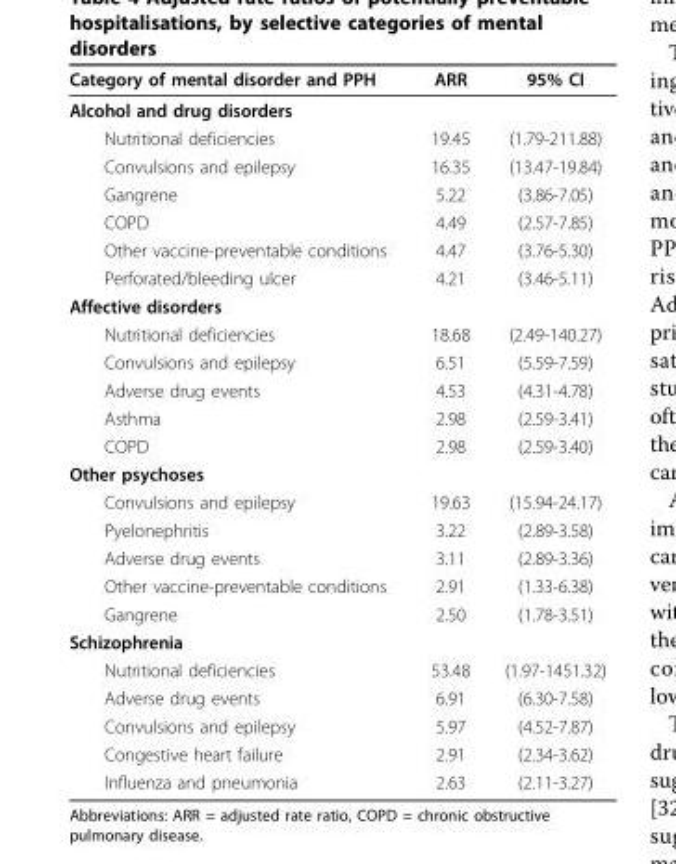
<table><thead><tr><td>Category of mental disorder and PPH</td><td>ARR</td><td>95% CI</td></tr></thead><tbody><tr><td colspan="3">Alcohol and drug disorders</td></tr><tr><td>Nutritional deficiencies</td><td>19.45</td><td>(1.79-211.88)</td></tr><tr><td>Convulsions and epilepsy</td><td>16.35</td><td>(13.47-19.84)</td></tr><tr><td>Gangrene</td><td>5.22</td><td>(3.86-7.05)</td></tr><tr><td>COPD</td><td>4.49</td><td>(2.57-7.85)</td></tr><tr><td>Other vaccine-preventable conditions</td><td>4.47</td><td>(3.76-5.30)</td></tr><tr><td>Perforated/bleeding ulcer</td><td>4.21</td><td>(3.46-5.11)</td></tr><tr><td colspan="3">Affective disorders</td></tr><tr><td>Nutritional deficiencies</td><td>18.68</td><td>(2.49-140.27)</td></tr><tr><td>Convulsions and epilepsy</td><td>6.51</td><td>(5.59-7.59)</td></tr><tr><td>Adverse drug events</td><td>4.53</td><td>(4.31-4.78)</td></tr><tr><td>Asthma</td><td>2.98</td><td>(2.59-3.41)</td></tr><tr><td>COPD</td><td>2.98</td><td>(2.59-3.40)</td></tr><tr><td colspan="3">Other psychoses</td></tr><tr><td>Convulsions and epilepsy</td><td>19.63</td><td>(15.94-24.17)</td></tr><tr><td>Pyelonephritis</td><td>3.22</td><td>(2.89-3.58)</td></tr><tr><td>Adverse drug events</td><td>3.11</td><td>(2.89-3.36)</td></tr><tr><td>Other vaccine-preventable conditions</td><td>2.91</td><td>(1.33-6.38)</td></tr><tr><td>Gangrene</td><td>2.50</td><td>(1.78-3.51)</td></tr><tr><td colspan="3">Schizophrenia</td></tr><tr><td>Nutritional deficiencies</td><td>53.48</td><td>(1.97-1451.32)</td></tr><tr><td>Adverse drug events</td><td>6.91</td><td>(6.30-7.58)</td></tr><tr><td>Convulsions and epilepsy</td><td>5.97</td><td>(4.52-7.87)</td></tr><tr><td>Congestive heart failure</td><td>2.91</td><td>(2.34-3.62)</td></tr><tr><td>Influenza and pneumonia</td><td>2.63</td><td>(2.11-3.27)</td></tr></tbody></table>